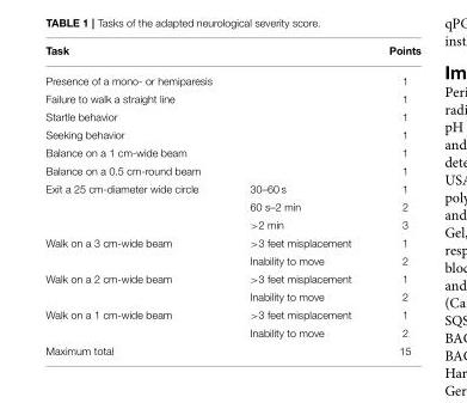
<table><thead><tr><td>Task</td><td></td><td>Points</td></tr></thead><tbody><tr><td>Presence of a mono- or hemiparesis</td><td></td><td>1</td></tr><tr><td>Failure to walk a straight line</td><td></td><td>1</td></tr><tr><td>Startle behavior</td><td></td><td>1</td></tr><tr><td>Seeking behavior</td><td></td><td>1</td></tr><tr><td>Balance on a 1 cm-wide beam</td><td></td><td>1</td></tr><tr><td>Balance on a 0.5 cm-round beam</td><td></td><td>1</td></tr><tr><td rowspan="3">Exit a 25 cm-diameter wide circle</td><td>30–60 s</td><td>1</td></tr><tr><td>60 s–2 min</td><td>2</td></tr><tr><td>&gt;2 min</td><td>3</td></tr><tr><td rowspan="2">Walk on a 3 cm-wide beam</td><td>&gt;3 feet misplacement</td><td>1</td></tr><tr><td>Inability to move</td><td>2</td></tr><tr><td rowspan="2">Walk on a 2 cm-wide beam</td><td>&gt;3 feet misplacement</td><td>1</td></tr><tr><td>Inability to move</td><td>2</td></tr><tr><td rowspan="2">Walk on a 1 cm-wide beam</td><td>&gt;3 feet misplacement</td><td>1</td></tr><tr><td>Inability to move</td><td>2</td></tr><tr><td>Maximum total</td><td></td><td>15</td></tr></tbody></table>